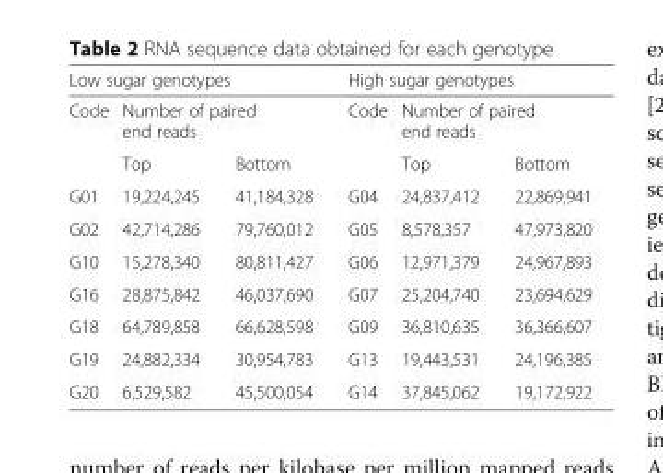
<table><thead><tr><td colspan="3">Low sugar genotypes</td><td colspan="3">High sugar genotypes</td></tr><tr><td rowspan="2">Code</td><td colspan="2">Number of paired end reads</td><td rowspan="2">Code</td><td colspan="2">Number of paired end reads</td></tr><tr><td>Top</td><td>Bottom</td><td>Top</td><td>Bottom</td></tr></thead><tbody><tr><td>G01</td><td>19,224,245</td><td>41,184,328</td><td>G04</td><td>24,837,412</td><td>22,869,941</td></tr><tr><td>G02</td><td>42,714,286</td><td>79,760,012</td><td>G05</td><td>8,578,357</td><td>47,973,820</td></tr><tr><td>G10</td><td>15,278,340</td><td>80,811,427</td><td>G06</td><td>12,971,379</td><td>24,967,893</td></tr><tr><td>G16</td><td>28,875,842</td><td>46,037,690</td><td>G07</td><td>25,204,740</td><td>23,694,629</td></tr><tr><td>G18</td><td>64,789,858</td><td>66,628,598</td><td>G09</td><td>36,810,635</td><td>36,366,607</td></tr><tr><td>G19</td><td>24,882,334</td><td>30,954,783</td><td>G13</td><td>19,443,531</td><td>24,196,385</td></tr><tr><td>G20</td><td>6,529,582</td><td>45,500,054</td><td>G14</td><td>37,845,062</td><td>19,172,922</td></tr></tbody></table>